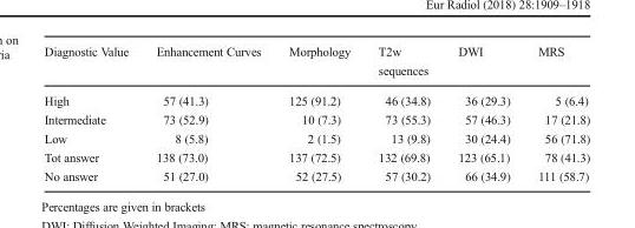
<table><thead><tr><td>Diagnostic Value</td><td>Enhancement Curves</td><td>Morphology</td><td>T2w sequences</td><td>DWI</td><td>MRS</td></tr></thead><tbody><tr><td>High</td><td>57 (41.3)</td><td>125 (91.2)</td><td>46 (34.8)</td><td>36 (29.3)</td><td>5 (6.4)</td></tr><tr><td>Intermediate</td><td>73 (52.9)</td><td>10 (7.3)</td><td>73 (55.3)</td><td>57 (46.3)</td><td>17 (21.8)</td></tr><tr><td>Low</td><td>8 (5.8)</td><td>2 (1.5)</td><td>13 (9.8)</td><td>30 (24.4)</td><td>56 (71.8)</td></tr><tr><td>Tot answer</td><td>138 (73.0)</td><td>137 (72.5)</td><td>132 (69.8)</td><td>123 (65.1)</td><td>78 (41.3)</td></tr><tr><td>No answer</td><td>51 (27.0)</td><td>52 (27.5)</td><td>57 (30.2)</td><td>66 (34.9)</td><td>111 (58.7)</td></tr></tbody></table>